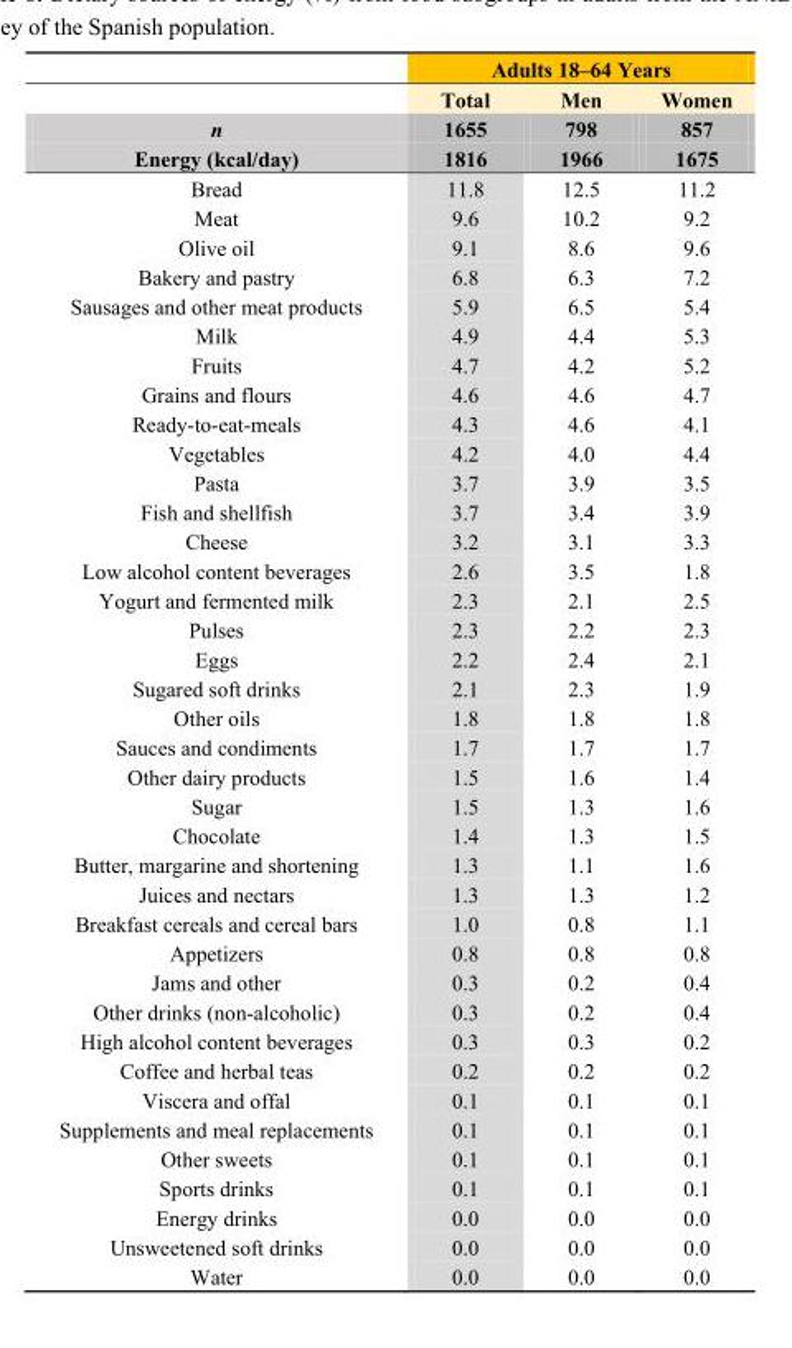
<table><thead><tr><td rowspan="4">n Energy (kcal/day)</td><td colspan="3">Adults 18–64 Years</td></tr><tr><td rowspan="3">Total 1655 1816</td><td rowspan="3">Men 798 1966</td><td rowspan="3">Women 857 1675</td></tr><tr></tr><tr></tr></thead><tbody><tr><td>Bread</td><td>11.8</td><td>12.5</td><td>11.2</td></tr><tr><td>Meat</td><td>9.6</td><td>10.2</td><td>9.2</td></tr><tr><td>Olive oil</td><td>9.1</td><td>8.6</td><td>9.6</td></tr><tr><td>Bakery and pastry</td><td>6.8</td><td>6.3</td><td>7.2</td></tr><tr><td>Sausages and other meat products</td><td>5.9</td><td>6.5</td><td>5.4</td></tr><tr><td>Milk</td><td>4.9</td><td>4.4</td><td>5.3</td></tr><tr><td>Fruits</td><td>4.7</td><td>4.2</td><td>5.2</td></tr><tr><td>Grains and flours</td><td>4.6</td><td>4.6</td><td>4.7</td></tr><tr><td>Ready-to-eat-meals</td><td>4.3</td><td>4.6</td><td>4.1</td></tr><tr><td>Vegetables</td><td>4.2</td><td>4.0</td><td>4.4</td></tr><tr><td>Pasta</td><td>3.7</td><td>3.9</td><td>3.5</td></tr><tr><td>Fish and shellfish</td><td>3.7</td><td>3.4</td><td>3.9</td></tr><tr><td>Cheese</td><td>3.2</td><td>3.1</td><td>3.3</td></tr><tr><td>Low alcohol content beverages</td><td>2.6</td><td>3.5</td><td>1.8</td></tr><tr><td>Yogurt and fermented milk</td><td>2.3</td><td>2.1</td><td>2.5</td></tr><tr><td>Pulses</td><td>2.3</td><td>2.2</td><td>2.3</td></tr><tr><td>Eggs</td><td>2.2</td><td>2.4</td><td>2.1</td></tr><tr><td>Sugared soft drinks</td><td>2.1</td><td>2.3</td><td>1.9</td></tr><tr><td>Other oils</td><td>1.8</td><td>1.8</td><td>1.8</td></tr><tr><td>Sauces and condiments</td><td>1.7</td><td>1.7</td><td>1.7</td></tr><tr><td>Other dairy products</td><td>1.5</td><td>1.6</td><td>1.4</td></tr><tr><td>Sugar</td><td>1.5</td><td>1.3</td><td>1.6</td></tr><tr><td>Chocolate</td><td>1.4</td><td>1.3</td><td>1.5</td></tr><tr><td>Butter, margarine and shortening</td><td>1.3</td><td>1.1</td><td>1.6</td></tr><tr><td>Juices and nectars</td><td>1.3</td><td>1.3</td><td>1.2</td></tr><tr><td>Breakfast cereals and cereal bars</td><td>1.0</td><td>0.8</td><td>1.1</td></tr><tr><td>Appetizers</td><td>0.8</td><td>0.8</td><td>0.8</td></tr><tr><td>Jams and other</td><td>0.3</td><td>0.2</td><td>0.4</td></tr><tr><td>Other drinks (non-alcoholic)</td><td>0.3</td><td>0.2</td><td>0.4</td></tr><tr><td>High alcohol content beverages</td><td>0.3</td><td>0.3</td><td>0.2</td></tr><tr><td>Coffee and herbal teas</td><td>0.2</td><td>0.2</td><td>0.2</td></tr><tr><td>Viscera and offal</td><td>0.1</td><td>0.1</td><td>0.1</td></tr><tr><td>Supplements and meal replacements</td><td>0.1</td><td>0.1</td><td>0.1</td></tr><tr><td>Other sweets</td><td>0.1</td><td>0.1</td><td>0.1</td></tr><tr><td>Sports drinks</td><td>0.1</td><td>0.1</td><td>0.1</td></tr><tr><td>Energy drinks</td><td>0.0</td><td>0.0</td><td>0.0</td></tr><tr><td>Unsweetened soft drinks</td><td>0.0</td><td>0.0</td><td>0.0</td></tr><tr><td>Water</td><td>0.0</td><td>0.0</td><td>0.0</td></tr></tbody></table>